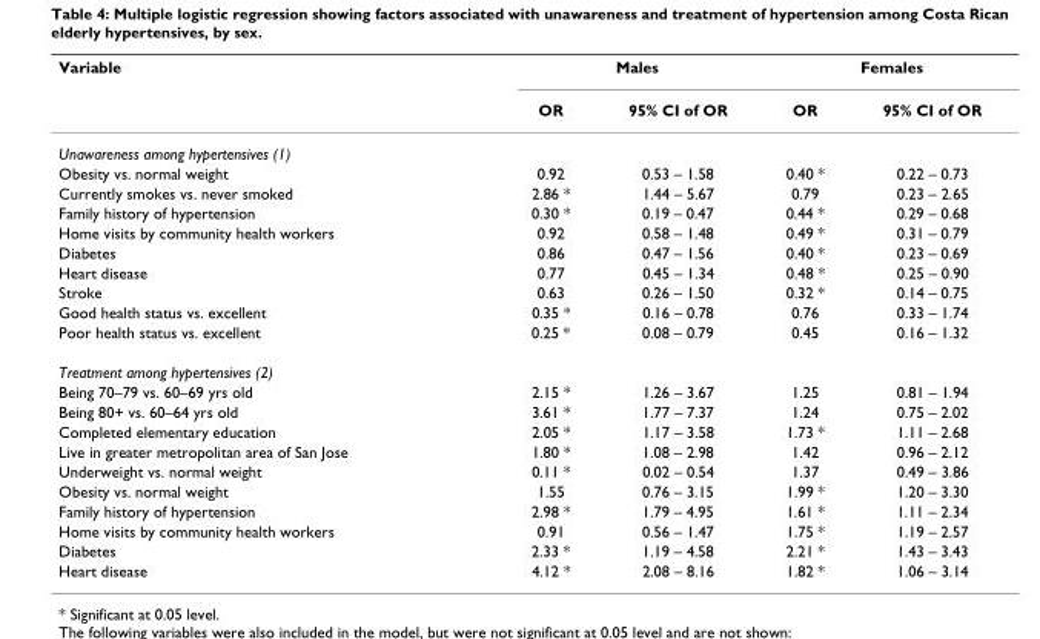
<table><thead><tr><td rowspan="2">Variable</td><td colspan="2">Males</td><td colspan="2">Females</td></tr><tr><td>OR</td><td>95% CI of OR</td><td>OR</td><td>95% CI of OR</td></tr></thead><tbody><tr><td colspan="5">Unawareness among hypertensives (1)</td></tr><tr><td>Obesity vs. normal weight</td><td>0.92</td><td>0.53 – 1.58</td><td>0.40 *</td><td>0.22 – 0.73</td></tr><tr><td>Currently smokes vs. never smoked</td><td>2.86 *</td><td>1.44 – 5.67</td><td>0.79</td><td>0.23 – 2.65</td></tr><tr><td>Family history of hypertension</td><td>0.30 *</td><td>0.19 – 0.47</td><td>0.44 *</td><td>0.29 – 0.68</td></tr><tr><td>Home visits by community health workers</td><td>0.92</td><td>0.58 – 1.48</td><td>0.49 *</td><td>0.31 – 0.79</td></tr><tr><td>Diabetes</td><td>0.86</td><td>0.47 – 1.56</td><td>0.40 *</td><td>0.23 – 0.69</td></tr><tr><td>Heart disease</td><td>0.77</td><td>0.45 – 1.34</td><td>0.48 *</td><td>0.25 – 0.90</td></tr><tr><td>Stroke</td><td>0.63</td><td>0.26 – 1.50</td><td>0.32 *</td><td>0.14 – 0.75</td></tr><tr><td>Good health status vs. excellent</td><td>0.35 *</td><td>0.16 – 0.78</td><td>0.76</td><td>0.33 – 1.74</td></tr><tr><td>Poor health status vs. excellent</td><td>0.25 *</td><td>0.08 – 0.79</td><td>0.45</td><td>0.16 – 1.32</td></tr><tr><td colspan="5">Treatment among hypertensives (2)</td></tr><tr><td>Being 70–79 vs. 60–69 yrs old</td><td>2.15 *</td><td>1.26 – 3.67</td><td>1.25</td><td>0.81 – 1.94</td></tr><tr><td>Being 80+ vs. 60–64 yrs old</td><td>3.61 *</td><td>1.77 – 7.37</td><td>1.24</td><td>0.75 – 2.02</td></tr><tr><td>Completed elementary education</td><td>2.05 *</td><td>1.17 – 3.58</td><td>1.73 *</td><td>1.11 – 2.68</td></tr><tr><td>Live in greater metropolitan area of San Jose</td><td>1.80 *</td><td>1.08 – 2.98</td><td>1.42</td><td>0.96 – 2.12</td></tr><tr><td>Underweight vs. normal weight</td><td>0.11 *</td><td>0.02 – 0.54</td><td>1.37</td><td>0.49 – 3.86</td></tr><tr><td>Obesity vs. normal weight</td><td>1.55</td><td>0.76 – 3.15</td><td>1.99 *</td><td>1.20 – 3.30</td></tr><tr><td>Family history of hypertension</td><td>2.98 *</td><td>1.79 – 4.95</td><td>1.61 *</td><td>1.11 – 2.34</td></tr><tr><td>Home visits by community health workers</td><td>0.91</td><td>0.56 – 1.47</td><td>1.75 *</td><td>1.19 – 2.57</td></tr><tr><td>Diabetes</td><td>2.33 *</td><td>1.19 – 4.58</td><td>2.21 *</td><td>1.43 – 3.43</td></tr><tr><td>Heart disease</td><td>4.12 *</td><td>2.08 – 8.16</td><td>1.82 *</td><td>1.06 – 3.14</td></tr></tbody></table>